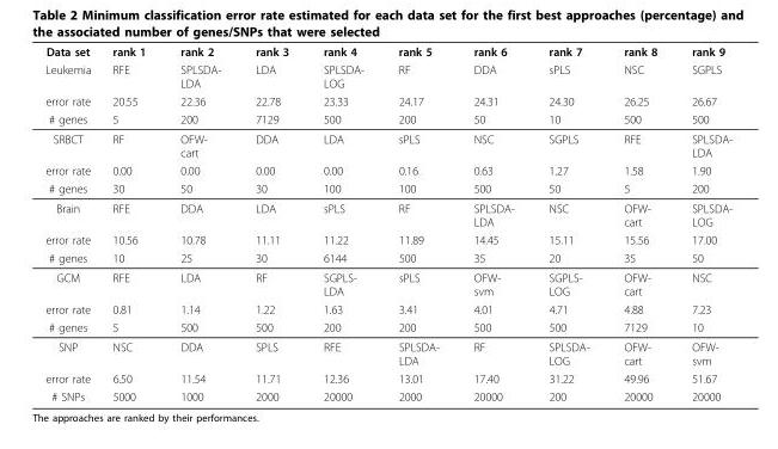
<table><thead><tr><td rowspan="4">Data set Leukemia error rate # genes</td><td rowspan="4">rank 1 RFE 20.55 5</td><td rowspan="4">rank 2 SPLSDA- LDA 22.36 200</td><td rowspan="4">rank 3 LDA 22.78 7129</td><td rowspan="4">rank 4 SPLSDA- LOG 23.33 500</td><td rowspan="4">rank 5 RF 24.17 200</td><td rowspan="4">rank 6 DDA 24.31 50</td><td rowspan="4">rank 7 sPLS 24.30 10</td><td rowspan="4">rank 8 NSC 26.25 500</td><td rowspan="4">rank 9 SGPLS 26.67 500</td></tr><tr></tr><tr></tr><tr></tr></thead><tbody><tr><td>SRBCT</td><td>RF</td><td>OFW- cart</td><td>DDA</td><td>LDA</td><td>sPLS</td><td>NSC</td><td>SGPLS</td><td>RFE</td><td>SPLSDA- LDA</td></tr><tr><td>error rate</td><td>0.00</td><td>0.00</td><td>0.00</td><td>0.00</td><td>0.16</td><td>0.63</td><td>1.27</td><td>1.58</td><td>1.90</td></tr><tr><td># genes</td><td>30</td><td>50</td><td>30</td><td>100</td><td>100</td><td>500</td><td>50</td><td>5</td><td>200</td></tr><tr><td>Brain</td><td>RFE</td><td>DDA</td><td>LDA</td><td>sPLS</td><td>RF</td><td>SPLSDA- LDA</td><td>NSC</td><td>OFW- cart</td><td>SPLSDA- LOG</td></tr><tr><td>error rate</td><td>10.56</td><td>10.78</td><td>11.11</td><td>11.22</td><td>11.89</td><td>14.45</td><td>15.11</td><td>15.56</td><td>17.00</td></tr><tr><td># genes</td><td>10</td><td>25</td><td>30</td><td>6144</td><td>500</td><td>35</td><td>20</td><td>35</td><td>50</td></tr><tr><td>GCM</td><td>RFE</td><td>LDA</td><td>RF</td><td>SGPLS- LDA</td><td>sPLS</td><td>OFW- svm</td><td>SGPLS- LOG</td><td>OFW- cart</td><td>NSC</td></tr><tr><td>error rate</td><td>0.81</td><td>1.14</td><td>1.22</td><td>1.63</td><td>3.41</td><td>4.01</td><td>4.71</td><td>4.88</td><td>7.23</td></tr><tr><td># genes</td><td>5</td><td>500</td><td>500</td><td>200</td><td>200</td><td>500</td><td>500</td><td>7129</td><td>10</td></tr><tr><td>SNP</td><td>NSC</td><td>DDA</td><td>SPLS</td><td>RFE</td><td>SPLSDA- LDA</td><td>RF</td><td>SPLSDA- LOG</td><td>OFW- cart</td><td>OFW- svm</td></tr><tr><td>error rate</td><td>6.50</td><td>11.54</td><td>11.71</td><td>12.36</td><td>13.01</td><td>17.40</td><td>31.22</td><td>49.96</td><td>51.67</td></tr><tr><td># SNPs</td><td>5000</td><td>1000</td><td>2000</td><td>20000</td><td>2000</td><td>20000</td><td>200</td><td>20000</td><td>20000</td></tr></tbody></table>